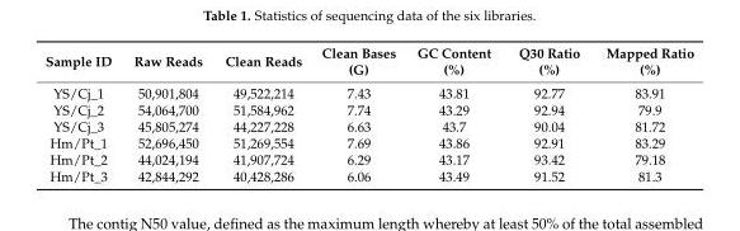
<table><thead><tr><td>Sample ID</td><td>Raw Reads</td><td>Clean Reads</td><td>Clean Bases (G)</td><td>GC Content (%)</td><td>Q30 Ratio (%)</td><td>Mapped Ratio (%)</td></tr></thead><tbody><tr><td>YS/Cj_1</td><td>50,901,804</td><td>49,522,214</td><td>7.43</td><td>43.81</td><td>92.77</td><td>83.91</td></tr><tr><td>YS/Cj_2</td><td>54,064,700</td><td>51,584,962</td><td>7.74</td><td>43.29</td><td>92.94</td><td>79.9</td></tr><tr><td>YS/Cj_3</td><td>45,805,274</td><td>44,227,228</td><td>6.63</td><td>43.7</td><td>90.04</td><td>81.72</td></tr><tr><td>Hm/Pt_1</td><td>52,696,450</td><td>51,269,554</td><td>7.69</td><td>43.86</td><td>92.91</td><td>83.29</td></tr><tr><td>Hm/Pt_2</td><td>44,024,194</td><td>41,907,724</td><td>6.29</td><td>43.17</td><td>93.42</td><td>79.18</td></tr><tr><td>Hm/Pt_3</td><td>42,844,292</td><td>40,428,286</td><td>6.06</td><td>43.49</td><td>91.52</td><td>81.3</td></tr></tbody></table>